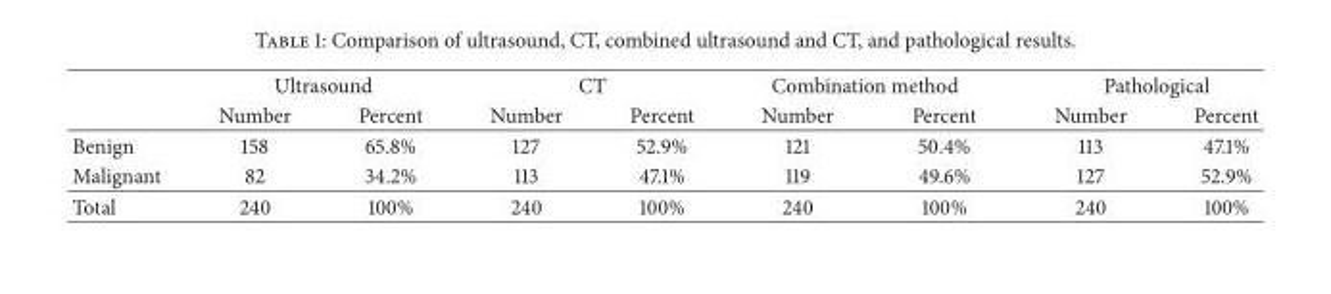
<table><thead><tr><td rowspan="2"></td><td colspan="2">Ultrasound</td><td colspan="2">CT</td><td colspan="2">Combination method</td><td colspan="2">Pathological</td></tr><tr><td>Number</td><td>Percent</td><td>Number</td><td>Percent</td><td>Number</td><td>Percent</td><td>Number</td><td>Percent</td></tr></thead><tbody><tr><td>Benign</td><td>158</td><td>65.8%</td><td>127</td><td>52.9%</td><td>121</td><td>50.4%</td><td>113</td><td>47.1%</td></tr><tr><td>Malignant</td><td>82</td><td>34.2%</td><td>113</td><td>47.1%</td><td>119</td><td>49.6%</td><td>127</td><td>52.9%</td></tr><tr><td>Total</td><td>240</td><td>100%</td><td>240</td><td>100%</td><td>240</td><td>100%</td><td>240</td><td>100%</td></tr></tbody></table>